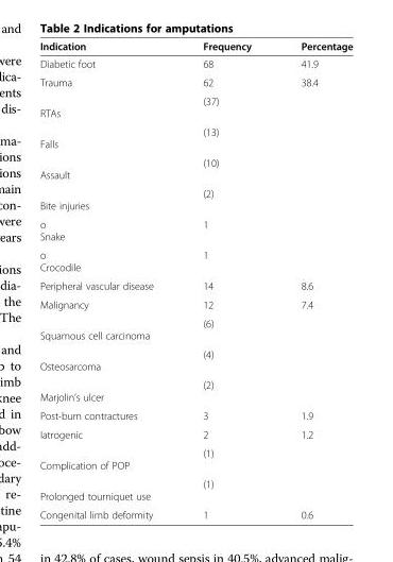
<table><thead><tr><td>Indication</td><td>Frequency</td><td>Percentage</td></tr></thead><tbody><tr><td>Diabetic foot</td><td>68</td><td>41.9</td></tr><tr><td>Trauma</td><td>62</td><td>38.4</td></tr><tr><td>RTAs</td><td>(37)</td><td></td></tr><tr><td>Falls</td><td>(13)</td><td></td></tr><tr><td>Assault</td><td>(10)</td><td></td></tr><tr><td>Bite injuries</td><td>(2)</td><td></td></tr><tr><td>o Snake</td><td>1</td><td></td></tr><tr><td>o Crocodile</td><td>1</td><td></td></tr><tr><td>Peripheral vascular disease</td><td>14</td><td>8.6</td></tr><tr><td>Malignancy</td><td>12</td><td>7.4</td></tr><tr><td>Squamous cell carcinoma</td><td>(6)</td><td></td></tr><tr><td>Osteosarcoma</td><td>(4)</td><td></td></tr><tr><td>Marjolin’s ulcer</td><td>(2)</td><td></td></tr><tr><td>Post-burn contractures</td><td>3</td><td>1.9</td></tr><tr><td>Iatrogenic</td><td>2</td><td>1.2</td></tr><tr><td>Complication of POP</td><td>(1)</td><td></td></tr><tr><td>Prolonged tourniquet use</td><td>(1)</td><td></td></tr><tr><td>Congenital limb deformity</td><td>1</td><td>0.6</td></tr></tbody></table>